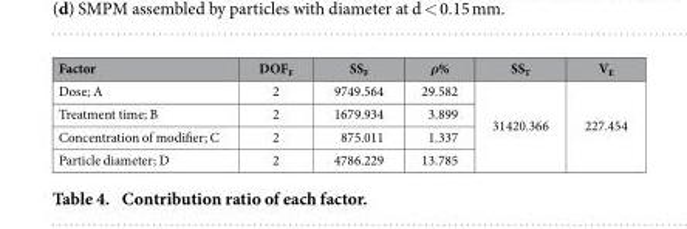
<table><thead><tr><td>Factor</td><td>DOF<sub>F</sub></td><td>SS<sub>F</sub></td><td>ρ%</td><td>SS<sub>T</sub></td><td>V<sub>E</sub></td></tr></thead><tbody><tr><td>Dose; A</td><td>2</td><td>9749.564</td><td>29.582</td><td rowspan="4">31420.366</td><td rowspan="4">227.454</td></tr><tr><td>Treatment time; B</td><td>2</td><td>1679.934</td><td>3.899</td></tr><tr><td>Concentration of modifier; C</td><td>2</td><td>875.011</td><td>1.337</td></tr><tr><td>Particle diameter; D</td><td>2</td><td>4786.229</td><td>13.785</td></tr></tbody></table>